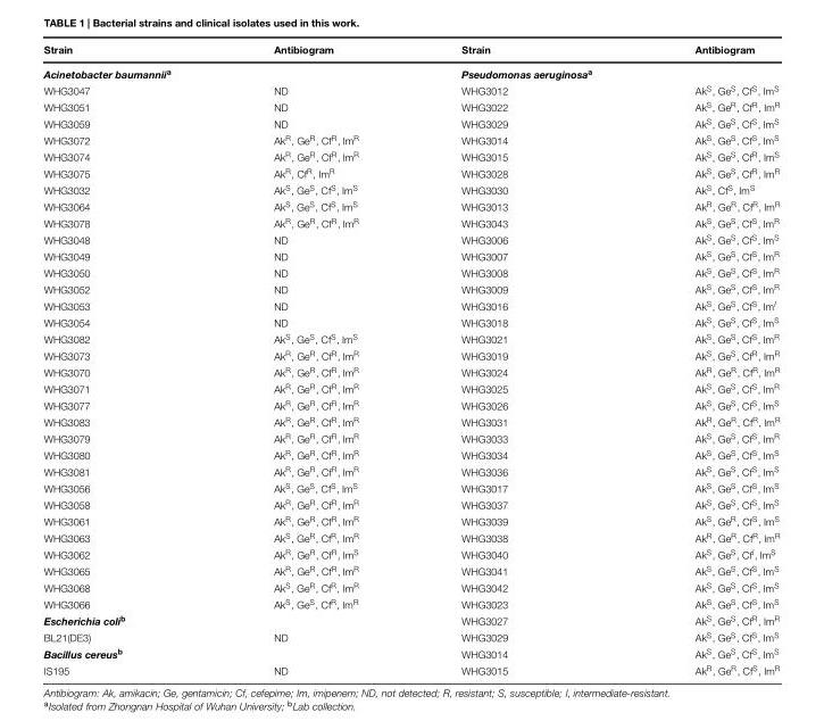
<table><thead><tr><td>Strain</td><td>Antibiogram</td><td>Strain</td><td>Antibiogram</td></tr></thead><tbody><tr><td>Acinetobacter baumannii<sup>a</sup></td><td></td><td>Pseudomonas aeruginosa<sup>a</sup></td><td></td></tr><tr><td>WHG3047</td><td>ND</td><td>WHG3012</td><td>Ak<sup>S</sup>, Ge<sup>S</sup>, Cf<sup>S</sup>, Im<sup>S</sup></td></tr><tr><td>WHG3051</td><td>ND</td><td>WHG3022</td><td>Ak<sup>S</sup>, Ge<sup>R</sup>, Cf<sup>R</sup>, Im<sup>R</sup></td></tr><tr><td>WHG3059</td><td>ND</td><td>WHG3029</td><td>Ak<sup>S</sup>, Ge<sup>S</sup>, Cf<sup>S</sup>, Im<sup>S</sup></td></tr><tr><td>WHG3072</td><td>Ak<sup>R</sup>, Ge<sup>R</sup>, Cf<sup>R</sup>, Im<sup>R</sup></td><td>WHG3014</td><td>Ak<sup>S</sup>, Ge<sup>S</sup>, Cf<sup>S</sup>, Im<sup>S</sup></td></tr><tr><td>WHG3074</td><td>Ak<sup>R</sup>, Ge<sup>R</sup>, Cf<sup>R</sup>, Im<sup>R</sup></td><td>WHG3015</td><td>Ak<sup>S</sup>, Ge<sup>S</sup>, Cf<sup>R</sup>, Im<sup>S</sup></td></tr><tr><td>WHG3075</td><td>Ak<sup>R</sup>, Cf<sup>R</sup>, Im<sup>R</sup></td><td>WHG3028</td><td>Ak<sup>S</sup>, Ge<sup>S</sup>, Cf<sup>R</sup>, Im<sup>R</sup></td></tr><tr><td>WHG3032</td><td>Ak<sup>S</sup>, Ge<sup>S</sup>, Cf<sup>S</sup>, Im<sup>S</sup></td><td>WHG3030</td><td>Ak<sup>S</sup>, Cf<sup>S</sup>, Im<sup>S</sup></td></tr><tr><td>WHG3064</td><td>Ak<sup>S</sup>, Ge<sup>S</sup>, Cf<sup>S</sup>, Im<sup>S</sup></td><td>WHG3013</td><td>Ak<sup>R</sup>, Ge<sup>R</sup>, Cf<sup>R</sup>, Im<sup>R</sup></td></tr><tr><td>WHG3078</td><td>Ak<sup>R</sup>, Ge<sup>R</sup>, Cf<sup>R</sup>, Im<sup>R</sup></td><td>WHG3043</td><td>Ak<sup>S</sup>, Ge<sup>S</sup>, Cf<sup>S</sup>, Im<sup>R</sup></td></tr><tr><td>WHG3048</td><td>ND</td><td>WHG3006</td><td>Ak<sup>S</sup>, Ge<sup>S</sup>, Cf<sup>S</sup>, Im<sup>S</sup></td></tr><tr><td>WHG3049</td><td>ND</td><td>WHG3007</td><td>Ak<sup>S</sup>, Ge<sup>S</sup>, Cf<sup>S</sup>, Im<sup>R</sup></td></tr><tr><td>WHG3050</td><td>ND</td><td>WHG3008</td><td>Ak<sup>S</sup>, Ge<sup>S</sup>, Cf<sup>S</sup>, Im<sup>R</sup></td></tr><tr><td>WHG3052</td><td>ND</td><td>WHG3009</td><td>Ak<sup>S</sup>, Ge<sup>S</sup>, Cf<sup>S</sup>, Im<sup>R</sup></td></tr><tr><td>WHG3053</td><td>ND</td><td>WHG3016</td><td>Ak<sup>S</sup>, Ge<sup>S</sup>, Cf<sup>S</sup>, Im<sup>I</sup></td></tr><tr><td>WHG3054</td><td>ND</td><td>WHG3018</td><td>Ak<sup>S</sup>, Ge<sup>S</sup>, Cf<sup>S</sup>, Im<sup>S</sup></td></tr><tr><td>WHG3082</td><td>Ak<sup>S</sup>, Ge<sup>S</sup>, Cf<sup>S</sup>, Im<sup>S</sup></td><td>WHG3021</td><td>Ak<sup>S</sup>, Ge<sup>S</sup>, Cf<sup>S</sup>, Im<sup>R</sup></td></tr><tr><td>WHG3073</td><td>Ak<sup>R</sup>, Ge<sup>R</sup>, Cf<sup>R</sup>, Im<sup>R</sup></td><td>WHG3019</td><td>Ak<sup>S</sup>, Ge<sup>S</sup>, Cf<sup>R</sup>, Im<sup>R</sup></td></tr><tr><td>WHG3070</td><td>Ak<sup>R</sup>, Ge<sup>R</sup>, Cf<sup>R</sup>, Im<sup>R</sup></td><td>WHG3024</td><td>Ak<sup>R</sup>, Ge<sup>R</sup>, Cf<sup>R</sup>, Im<sup>R</sup></td></tr><tr><td>WHG3071</td><td>Ak<sup>R</sup>, Ge<sup>R</sup>, Cf<sup>R</sup>, Im<sup>R</sup></td><td>WHG3025</td><td>Ak<sup>S</sup>, Ge<sup>S</sup>, Cf<sup>S</sup>, Im<sup>R</sup></td></tr><tr><td>WHG3077</td><td>Ak<sup>R</sup>, Ge<sup>R</sup>, Cf<sup>R</sup>, Im<sup>R</sup></td><td>WHG3026</td><td>Ak<sup>S</sup>, Ge<sup>S</sup>, Cf<sup>S</sup>, Im<sup>S</sup></td></tr><tr><td>WHG3083</td><td>Ak<sup>R</sup>, Ge<sup>R</sup>, Cf<sup>R</sup>, Im<sup>R</sup></td><td>WHG3031</td><td>Ak<sup>R</sup>, Ge<sup>R</sup>, Cf<sup>R</sup>, Im<sup>R</sup></td></tr><tr><td>WHG3079</td><td>Ak<sup>R</sup>, Ge<sup>R</sup>, Cf<sup>R</sup>, Im<sup>R</sup></td><td>WHG3033</td><td>Ak<sup>S</sup>, Ge<sup>S</sup>, Cf<sup>S</sup>, Im<sup>R</sup></td></tr><tr><td>WHG3080</td><td>Ak<sup>R</sup>, Ge<sup>R</sup>, Cf<sup>R</sup>, Im<sup>R</sup></td><td>WHG3034</td><td>Ak<sup>S</sup>, Ge<sup>S</sup>, Cf<sup>S</sup>, Im<sup>S</sup></td></tr><tr><td>WHG3081</td><td>Ak<sup>R</sup>, Ge<sup>R</sup>, Cf<sup>R</sup>, Im<sup>R</sup></td><td>WHG3036</td><td>Ak<sup>S</sup>, Ge<sup>S</sup>, Cf<sup>S</sup>, Im<sup>S</sup></td></tr><tr><td>WHG3056</td><td>Ak<sup>S</sup>, Ge<sup>S</sup>, Cf<sup>S</sup>, Im<sup>S</sup></td><td>WHG3017</td><td>Ak<sup>S</sup>, Ge<sup>S</sup>, Cf<sup>S</sup>, Im<sup>S</sup></td></tr><tr><td>WHG3058</td><td>Ak<sup>R</sup>, Ge<sup>R</sup>, Cf<sup>R</sup>, Im<sup>R</sup></td><td>WHG3037</td><td>Ak<sup>S</sup>, Ge<sup>S</sup>, Cf<sup>S</sup>, Im<sup>S</sup></td></tr><tr><td>WHG3061</td><td>Ak<sup>R</sup>, Ge<sup>R</sup>, Cf<sup>R</sup>, Im<sup>R</sup></td><td>WHG3039</td><td>Ak<sup>S</sup>, Ge<sup>R</sup>, Cf<sup>S</sup>, Im<sup>S</sup></td></tr><tr><td>WHG3063</td><td>Ak<sup>S</sup>, Ge<sup>R</sup>, Cf<sup>R</sup>, Im<sup>R</sup></td><td>WHG3038</td><td>Ak<sup>R</sup>, Ge<sup>R</sup>, Cf<sup>R</sup>, Im<sup>R</sup></td></tr><tr><td>WHG3062</td><td>Ak<sup>R</sup>, Ge<sup>R</sup>, Cf<sup>R</sup>, Im<sup>S</sup></td><td>WHG3040</td><td>Ak<sup>S</sup>, Ge<sup>S</sup>, Cf<sup>I</sup>, Im<sup>S</sup></td></tr><tr><td>WHG3065</td><td>Ak<sup>R</sup>, Ge<sup>R</sup>, Cf<sup>R</sup>, Im<sup>R</sup></td><td>WHG3041</td><td>Ak<sup>S</sup>, Ge<sup>S</sup>, Cf<sup>S</sup>, Im<sup>S</sup></td></tr><tr><td>WHG3068</td><td>Ak<sup>S</sup>, Ge<sup>R</sup>, Cf<sup>R</sup>, Im<sup>R</sup></td><td>WHG3042</td><td>Ak<sup>S</sup>, Ge<sup>S</sup>, Cf<sup>S</sup>, Im<sup>S</sup></td></tr><tr><td>WHG3066</td><td>Ak<sup>S</sup>, Ge<sup>S</sup>, Cf<sup>R</sup>, Im<sup>R</sup></td><td>WHG3023</td><td>Ak<sup>S</sup>, Ge<sup>S</sup>, Cf<sup>S</sup>, Im<sup>S</sup></td></tr><tr><td>Escherichia coli<sup>b</sup></td><td></td><td>WHG3027</td><td>Ak<sup>S</sup>, Ge<sup>S</sup>, Cf<sup>R</sup>, Im<sup>R</sup></td></tr><tr><td>BL21(DE3)</td><td>ND</td><td>WHG3029</td><td>Ak<sup>S</sup>, Ge<sup>S</sup>, Cf<sup>S</sup>, Im<sup>S</sup></td></tr><tr><td>Bacillus cereus<sup>b</sup></td><td></td><td>WHG3014</td><td>Ak<sup>S</sup>, Ge<sup>S</sup>, Cf<sup>S</sup>, Im<sup>S</sup></td></tr><tr><td>IS195</td><td>ND</td><td>WHG3015</td><td>Ak<sup>R</sup>, Ge<sup>R</sup>, Cf<sup>S</sup>, Im<sup>R</sup></td></tr></tbody></table>